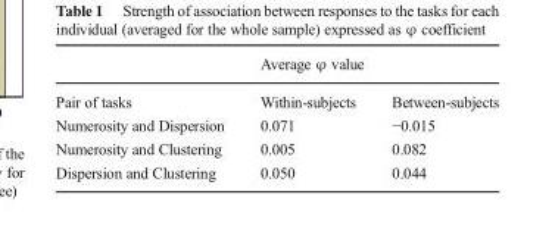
<table><thead><tr><td rowspan="2">Pair of tasks</td><td colspan="2">Average φ value</td></tr><tr><td>Within-subjects</td><td>Between-subjects</td></tr></thead><tbody><tr><td>Numerosity and Dispersion</td><td>0.071</td><td>−0.015</td></tr><tr><td>Numerosity and Clustering</td><td>0.005</td><td>0.082</td></tr><tr><td>Dispersion and Clustering</td><td>0.050</td><td>0.044</td></tr></tbody></table>